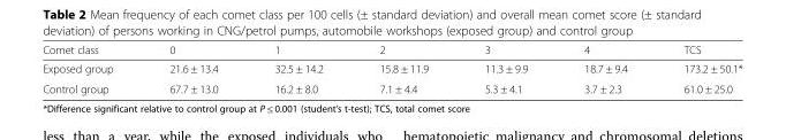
<table><thead><tr><td>Comet class</td><td>0</td><td>1</td><td>2</td><td>3</td><td>4</td><td>TCS</td></tr></thead><tbody><tr><td>Exposed group</td><td>21.6 ± 13.4</td><td>32.5 ± 14.2</td><td>15.8 ± 11.9</td><td>11.3 ± 9.9</td><td>18.7 ± 9.4</td><td>173.2 ± 50.1*</td></tr><tr><td>Control group</td><td>67.7 ± 13.0</td><td>16.2 ± 8.0</td><td>7.1 ± 4.4</td><td>5.3 ± 4.1</td><td>3.7 ± 2.3</td><td>61.0 ± 25.0</td></tr></tbody></table>